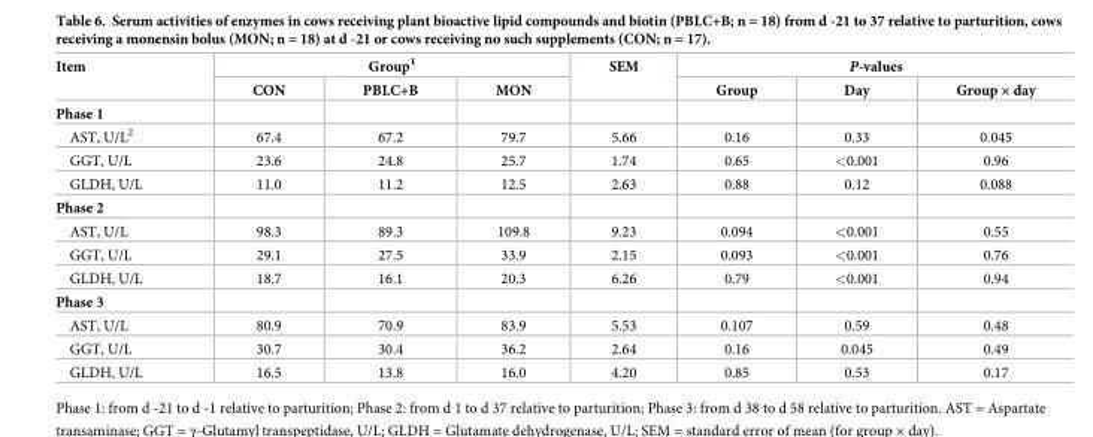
<table><thead><tr><td rowspan="2">Item</td><td colspan="3">Group<sup>1</sup></td><td rowspan="2">SEM</td><td colspan="3">P-values</td></tr><tr><td>CON</td><td>PBLC+B</td><td>MON</td><td>Group</td><td>Day</td><td>Group × day</td></tr></thead><tbody><tr><td colspan="8">Phase 1</td></tr><tr><td>AST, U/L<sup>2</sup></td><td>67.4</td><td>67.2</td><td>79.7</td><td>5.66</td><td>0.16</td><td>0.33</td><td>0.045</td></tr><tr><td>GGT, U/L</td><td>23.6</td><td>24.8</td><td>25.7</td><td>1.74</td><td>0.65</td><td>&lt;0.001</td><td>0.96</td></tr><tr><td>GLDH, U/L</td><td>11.0</td><td>11.2</td><td>12.5</td><td>2.63</td><td>0.88</td><td>0.12</td><td>0.088</td></tr><tr><td colspan="8">Phase 2</td></tr><tr><td>AST, U/L</td><td>98.3</td><td>89.3</td><td>109.8</td><td>9.23</td><td>0.094</td><td>&lt;0.001</td><td>0.55</td></tr><tr><td>GGT, U/L</td><td>29.1</td><td>27.5</td><td>33.9</td><td>2.15</td><td>0.093</td><td>&lt;0.001</td><td>0.76</td></tr><tr><td>GLDH, U/L</td><td>18.7</td><td>16.1</td><td>20.3</td><td>6.26</td><td>0.79</td><td>&lt;0.001</td><td>0.94</td></tr><tr><td colspan="8">Phase 3</td></tr><tr><td>AST, U/L</td><td>80.9</td><td>70.9</td><td>83.9</td><td>5.53</td><td>0.107</td><td>0.59</td><td>0.48</td></tr><tr><td>GGT, U/L</td><td>30.7</td><td>30.4</td><td>36.2</td><td>2.64</td><td>0.16</td><td>0.045</td><td>0.49</td></tr><tr><td>GLDH, U/L</td><td>16.5</td><td>13.8</td><td>16.0</td><td>4.20</td><td>0.85</td><td>0.53</td><td>0.17</td></tr></tbody></table>